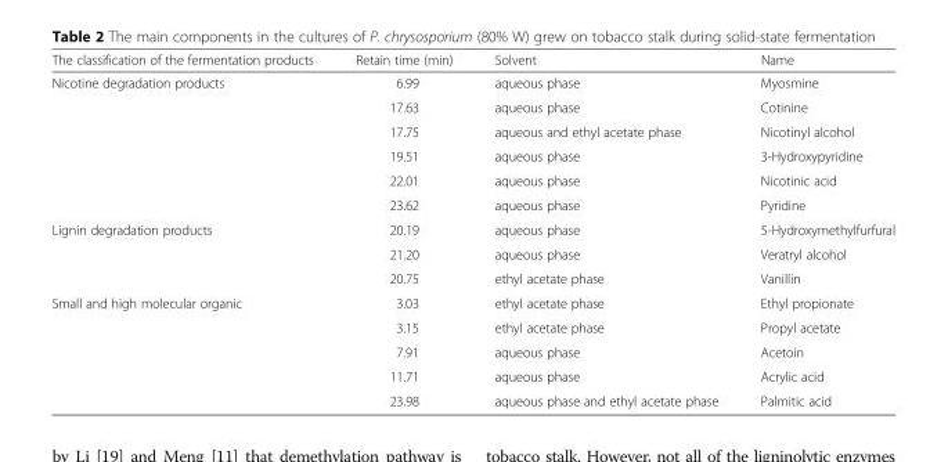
<table><thead><tr><td>The classification of the fermentation products</td><td>Retain time (min)</td><td>Solvent</td><td>Name</td></tr></thead><tbody><tr><td rowspan="6">Nicotine degradation products</td><td>6.99</td><td>aqueous phase</td><td>Myosmine</td></tr><tr><td>17.63</td><td>aqueous phase</td><td>Cotinine</td></tr><tr><td>17.75</td><td>aqueous and ethyl acetate phase</td><td>Nicotinyl alcohol</td></tr><tr><td>19.51</td><td>aqueous phase</td><td>3-Hydroxypyridine</td></tr><tr><td>22.01</td><td>aqueous phase</td><td>Nicotinic acid</td></tr><tr><td>23.62</td><td>aqueous phase</td><td>Pyridine</td></tr><tr><td rowspan="3">Lignin degradation products</td><td>20.19</td><td>aqueous phase</td><td>5-Hydroxymethylfurfural</td></tr><tr><td>21.20</td><td>aqueous phase</td><td>Veratryl alcohol</td></tr><tr><td>20.75</td><td>ethyl acetate phase</td><td>Vanillin</td></tr><tr><td rowspan="5">Small and high molecular organic</td><td>3.03</td><td>ethyl acetate phase</td><td>Ethyl propionate</td></tr><tr><td>3.15</td><td>ethyl acetate phase</td><td>Propyl acetate</td></tr><tr><td>7.91</td><td>aqueous phase</td><td>Acetoin</td></tr><tr><td>11.71</td><td>aqueous phase</td><td>Acrylic acid</td></tr><tr><td>23.98</td><td>aqueous phase and ethyl acetate phase</td><td>Palmitic acid</td></tr></tbody></table>